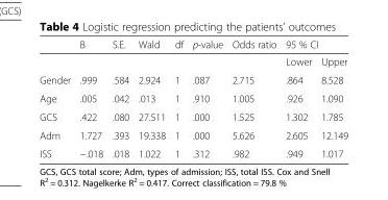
<table><thead><tr><td></td><td>B</td><td>S.E.</td><td>Wald</td><td>df</td><td>p-value</td><td>Odds ratio</td><td colspan="2">95 % CI</td></tr><tr><td colspan="7"></td><td>Lower</td><td>Upper</td></tr></thead><tbody><tr><td>Gender</td><td>.999</td><td>.584</td><td>2.924</td><td>1</td><td>.087</td><td>2.715</td><td>.864</td><td>8.528</td></tr><tr><td>Age</td><td>.005</td><td>.042</td><td>.013</td><td>1</td><td>.910</td><td>1.005</td><td>.926</td><td>1.090</td></tr><tr><td>GCS</td><td>.422</td><td>.080</td><td>27.511</td><td>1</td><td>.000</td><td>1.525</td><td>1.302</td><td>1.785</td></tr><tr><td>Adm</td><td>1.727</td><td>.393</td><td>19.338</td><td>1</td><td>.000</td><td>5.626</td><td>2.605</td><td>12.149</td></tr><tr><td>ISS</td><td>−.018</td><td>.018</td><td>1.022</td><td>1</td><td>.312</td><td>.982</td><td>.949</td><td>1.017</td></tr></tbody></table>